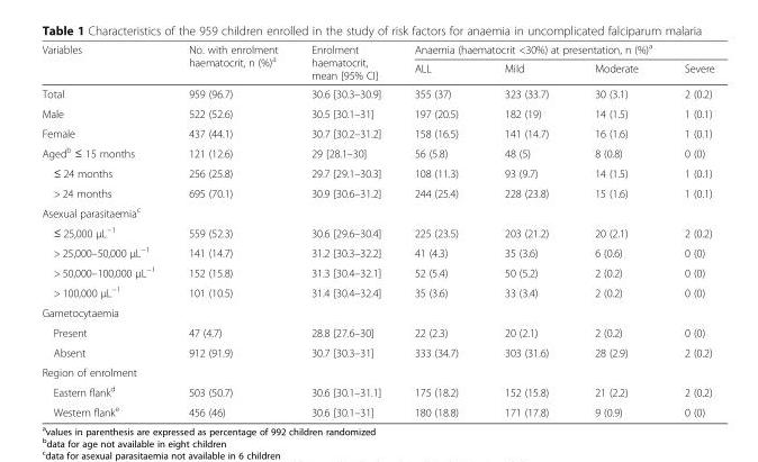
<table><thead><tr><td rowspan="2">Variables</td><td rowspan="2">No. with enrolment haematocrit, n (%)<sup>a</sup></td><td rowspan="2">Enrolment haematocrit, mean [95% CI]</td><td colspan="4">Anaemia (haematocrit &lt;30%) at presentation, n (%)<sup>a</sup></td></tr><tr><td>ALL</td><td>Mild</td><td>Moderate</td><td>Severe</td></tr></thead><tbody><tr><td>Total</td><td>959 (96.7)</td><td>30.6 [30.3–30.9]</td><td>355 (37)</td><td>323 (33.7)</td><td>30 (3.1)</td><td>2 (0.2)</td></tr><tr><td>Male</td><td>522 (52.6)</td><td>30.5 [30.1–31]</td><td>197 (20.5)</td><td>182 (19)</td><td>14 (1.5)</td><td>1 (0.1)</td></tr><tr><td>Female</td><td>437 (44.1)</td><td>30.7 [30.2–31.2]</td><td>158 (16.5)</td><td>141 (14.7)</td><td>16 (1.6)</td><td>1 (0.1)</td></tr><tr><td>Aged<sup>b</sup> ≤ 15 months</td><td>121 (12.6)</td><td>29 [28.1–30]</td><td>56 (5.8)</td><td>48 (5)</td><td>8 (0.8)</td><td>0 (0)</td></tr><tr><td>≤ 24 months</td><td>256 (25.8)</td><td>29.7 [29.1–30.3]</td><td>108 (11.3)</td><td>93 (9.7)</td><td>14 (1.5)</td><td>1 (0.1)</td></tr><tr><td>&gt; 24 months</td><td>695 (70.1)</td><td>30.9 [30.6–31.2]</td><td>244 (25.4)</td><td>228 (23.8)</td><td>15 (1.6)</td><td>1 (0.1)</td></tr><tr><td colspan="7">Asexual parasitaemia<sup>c</sup></td></tr><tr><td>≤ 25,000 μL<sup>−1</sup></td><td>559 (52.3)</td><td>30.6 [29.6–30.4]</td><td>225 (23.5)</td><td>203 (21.2)</td><td>20 (2.1)</td><td>2 (0.2)</td></tr><tr><td>&gt; 25,000–50,000 μL<sup>−1</sup></td><td>141 (14.7)</td><td>31.2 [30.3–32.2]</td><td>41 (4.3)</td><td>35 (3.6)</td><td>6 (0.6)</td><td>0 (0)</td></tr><tr><td>&gt; 50,000–100,000 μL<sup>−1</sup></td><td>152 (15.8)</td><td>31.3 [30.4–32.1]</td><td>52 (5.4)</td><td>50 (5.2)</td><td>2 (0.2)</td><td>0 (0)</td></tr><tr><td>&gt; 100,000 μL<sup>−1</sup></td><td>101 (10.5)</td><td>31.4 [30.4–32.4]</td><td>35 (3.6)</td><td>33 (3.4)</td><td>2 (0.2)</td><td>0 (0)</td></tr><tr><td colspan="7">Gametocytaemia</td></tr><tr><td>Present</td><td>47 (4.7)</td><td>28.8 [27.6–30]</td><td>22 (2.3)</td><td>20 (2.1)</td><td>2 (0.2)</td><td>0 (0)</td></tr><tr><td>Absent</td><td>912 (91.9)</td><td>30.7 [30.3–31]</td><td>333 (34.7)</td><td>303 (31.6)</td><td>28 (2.9)</td><td>2 (0.2)</td></tr><tr><td colspan="7">Region of enrolment</td></tr><tr><td>Eastern flank<sup>d</sup></td><td>503 (50.7)</td><td>30.6 [30.1–31.1]</td><td>175 (18.2)</td><td>152 (15.8)</td><td>21 (2.2)</td><td>2 (0.2)</td></tr><tr><td>Western flank<sup>e</sup></td><td>456 (46)</td><td>30.6 [30.1–31]</td><td>180 (18.8)</td><td>171 (17.8)</td><td>9 (0.9)</td><td>0 (0)</td></tr></tbody></table>